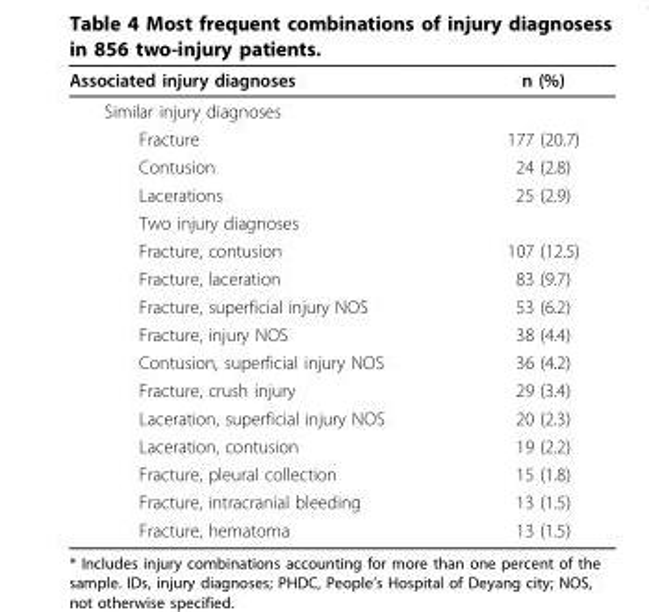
<table><thead><tr><td>Associated injury diagnoses</td><td>n (%)</td></tr></thead><tbody><tr><td colspan="2">Similar injury diagnoses</td></tr><tr><td>Fracture</td><td>177 (20.7)</td></tr><tr><td>Contusion</td><td>24 (2.8)</td></tr><tr><td>Lacerations</td><td>25 (2.9)</td></tr><tr><td colspan="2">Two injury diagnoses</td></tr><tr><td>Fracture, contusion</td><td>107 (12.5)</td></tr><tr><td>Fracture, laceration</td><td>83 (9.7)</td></tr><tr><td>Fracture, superficial injury NOS</td><td>53 (6.2)</td></tr><tr><td>Fracture, injury NOS</td><td>38 (4.4)</td></tr><tr><td>Contusion, superficial injury NOS</td><td>36 (4.2)</td></tr><tr><td>Fracture, crush injury</td><td>29 (3.4)</td></tr><tr><td>Laceration, superficial injury NOS</td><td>20 (2.3)</td></tr><tr><td>Laceration, contusion</td><td>19 (2.2)</td></tr><tr><td>Fracture, pleural collection</td><td>15 (1.8)</td></tr><tr><td>Fracture, intracranial bleeding</td><td>13 (1.5)</td></tr><tr><td>Fracture, hematoma</td><td>13 (1.5)</td></tr></tbody></table>